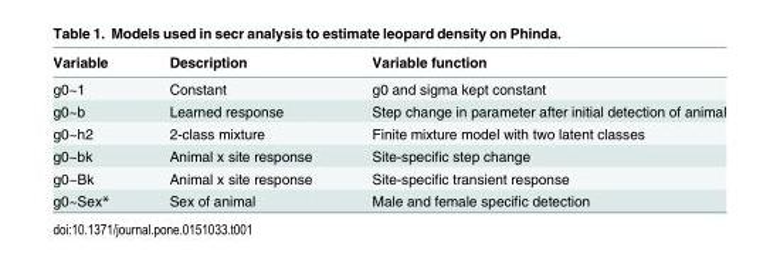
<table><thead><tr><td>Variable</td><td>Description</td><td>Variable function</td></tr></thead><tbody><tr><td>g0~1</td><td>Constant</td><td>g0 and sigma kept constant</td></tr><tr><td>g0~b</td><td>Learned response</td><td>Step change in parameter after initial detection of animal</td></tr><tr><td>g0~h2</td><td>2-class mixture</td><td>Finite mixture model with two latent classes</td></tr><tr><td>g0~bk</td><td>Animal x site response</td><td>Site-specific step change</td></tr><tr><td>g0~Bk</td><td>Animal x site response</td><td>Site-specific transient response</td></tr><tr><td>g0~Sex*</td><td>Sex of animal</td><td>Male and female specific detection</td></tr></tbody></table>